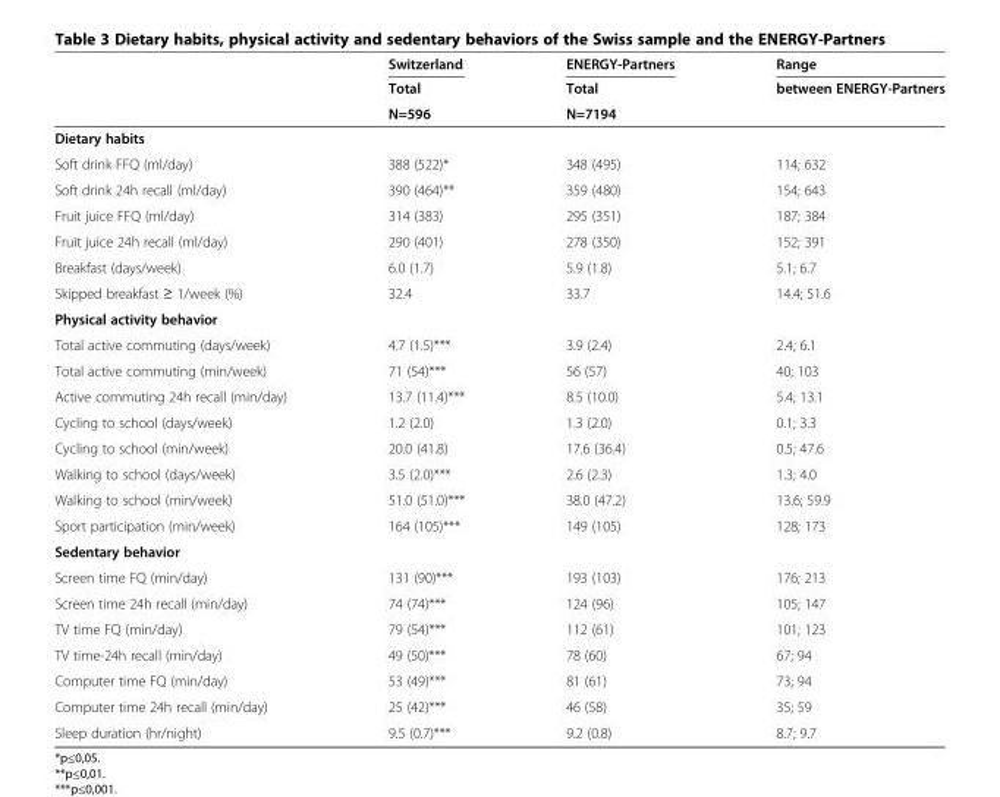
<table><thead><tr><td></td><td>Switzerland</td><td>ENERGY-Partners</td><td>Range</td></tr></thead><tbody><tr><td></td><td>Total</td><td>Total</td><td>between ENERGY-Partners</td></tr><tr><td></td><td>N=596</td><td>N=7194</td><td></td></tr><tr><td colspan="4">Dietary habits</td></tr><tr><td>Soft drink FFQ (ml/day)</td><td>388 (522)*</td><td>348 (495)</td><td>114; 632</td></tr><tr><td>Soft drink 24h recall (ml/day)</td><td>390 (464)**</td><td>359 (480)</td><td>154; 643</td></tr><tr><td>Fruit juice FFQ (ml/day)</td><td>314 (383)</td><td>295 (351)</td><td>187; 384</td></tr><tr><td>Fruit juice 24h recall (ml/day)</td><td>290 (401)</td><td>278 (350)</td><td>152; 391</td></tr><tr><td>Breakfast (days/week)</td><td>6.0 (1.7)</td><td>5.9 (1.8)</td><td>5.1; 6.7</td></tr><tr><td>Skipped breakfast ≥ 1/week (%)</td><td>32.4</td><td>33.7</td><td>14.4; 51.6</td></tr><tr><td colspan="4">Physical activity behavior</td></tr><tr><td>Total active commuting (days/week)</td><td>4.7 (1.5)***</td><td>3.9 (2.4)</td><td>2.4; 6.1</td></tr><tr><td>Total active commuting (min/week)</td><td>71 (54)***</td><td>56 (57)</td><td>40; 103</td></tr><tr><td>Active commuting 24h recall (min/day)</td><td>13.7 (11.4)***</td><td>8.5 (10.0)</td><td>5.4; 13.1</td></tr><tr><td>Cycling to school (days/week)</td><td>1.2 (2.0)</td><td>1.3 (2.0)</td><td>0.1; 3.3</td></tr><tr><td>Cycling to school (min/week)</td><td>20.0 (41.8)</td><td>17.6 (36.4)</td><td>0.5; 47.6</td></tr><tr><td>Walking to school (days/week)</td><td>3.5 (2.0)***</td><td>2.6 (2.3)</td><td>1.3; 4.0</td></tr><tr><td>Walking to school (min/week)</td><td>51.0 (51.0)***</td><td>38.0 (47.2)</td><td>13.6; 59.9</td></tr><tr><td>Sport participation (min/week)</td><td>164 (105)***</td><td>149 (105)</td><td>128; 173</td></tr><tr><td colspan="4">Sedentary behavior</td></tr><tr><td>Screen time FQ (min/day)</td><td>131 (90)***</td><td>193 (103)</td><td>176; 213</td></tr><tr><td>Screen time 24h recall (min/day)</td><td>74 (74)***</td><td>124 (96)</td><td>105; 147</td></tr><tr><td>TV time FQ (min/day)</td><td>79 (54)***</td><td>112 (61)</td><td>101; 123</td></tr><tr><td>TV time-24h recall (min/day)</td><td>49 (50)***</td><td>78 (60)</td><td>67; 94</td></tr><tr><td>Computer time FQ (min/day)</td><td>53 (49)***</td><td>81 (61)</td><td>73; 94</td></tr><tr><td>Computer time 24h recall (min/day)</td><td>25 (42)***</td><td>46 (58)</td><td>35; 59</td></tr><tr><td>Sleep duration (hr/night)</td><td>9.5 (0.7)***</td><td>9.2 (0.8)</td><td>8.7; 9.7</td></tr></tbody></table>